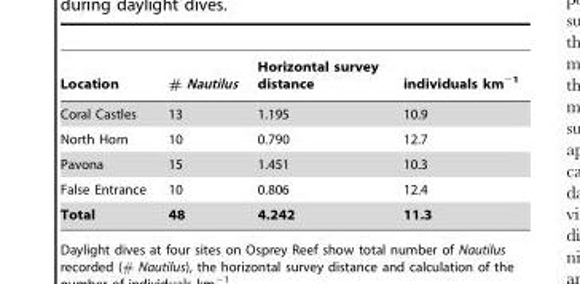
<table><thead><tr><td>Location</td><td># Nautilus</td><td>Horizontal survey distance</td><td>individuals km<sup>−1</sup></td></tr></thead><tbody><tr><td>Coral Castles</td><td>13</td><td>1.195</td><td>10.9</td></tr><tr><td>North Horn</td><td>10</td><td>0.790</td><td>12.7</td></tr><tr><td>Pavona</td><td>15</td><td>1.451</td><td>10.3</td></tr><tr><td>False Entrance</td><td>10</td><td>0.806</td><td>12.4</td></tr><tr><td>Total</td><td>48</td><td>4.242</td><td>11.3</td></tr></tbody></table>